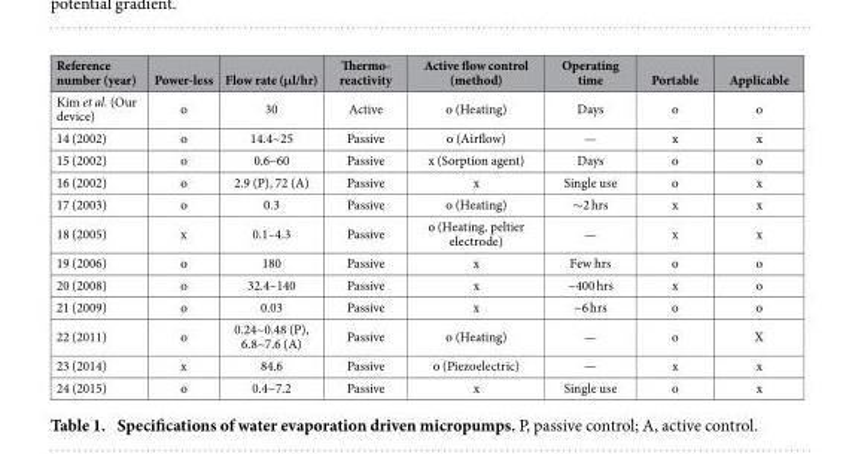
<table><thead><tr><td>Reference number (year)</td><td>Power-less</td><td>Flow rate (μl/hr)</td><td>Thermo- reactivity</td><td>Active flow control (method)</td><td>Operating time</td><td>Portable</td><td>Applicable</td></tr></thead><tbody><tr><td>Kim et al. (Our device)</td><td>o</td><td>30</td><td>Active</td><td>o (Heating)</td><td>Days</td><td>o</td><td>o</td></tr><tr><td>14 (2002)</td><td>o</td><td>14.4~25</td><td>Passive</td><td>o (Airflow)</td><td>—</td><td>x</td><td>x</td></tr><tr><td>15 (2002)</td><td>o</td><td>0.6–60</td><td>Passive</td><td>x (Sorption agent)</td><td>Days</td><td>o</td><td>o</td></tr><tr><td>16 (2002)</td><td>o</td><td>2.9 (P), 72 (A)</td><td>Passive</td><td>x</td><td>Single use</td><td>o</td><td>x</td></tr><tr><td>17 (2003)</td><td>o</td><td>0.3</td><td>Passive</td><td>o (Heating)</td><td>∼ 2 hrs</td><td>x</td><td>x</td></tr><tr><td>18 (2005)</td><td>x</td><td>0.1–4.3</td><td>Passive</td><td>o (Heating, peltier electrode)</td><td>—</td><td>x</td><td>x</td></tr><tr><td>19 (2006)</td><td>o</td><td>180</td><td>Passive</td><td>x</td><td>Few hrs</td><td>o</td><td>o</td></tr><tr><td>20 (2008)</td><td>o</td><td>32.4–140</td><td>Passive</td><td>x</td><td>~400 hrs</td><td>x</td><td>o</td></tr><tr><td>21 (2009)</td><td>o</td><td>0.03</td><td>Passive</td><td>x</td><td>~6 hrs</td><td>o</td><td>o</td></tr><tr><td>22 (2011)</td><td>o</td><td>0.24~0.48 (P), 6.8~7.6 (A)</td><td>Passive</td><td>o (Heating)</td><td>—</td><td>o</td><td>X</td></tr><tr><td>23 (2014)</td><td>x</td><td>84.6</td><td>Passive</td><td>o (Piezoelectric)</td><td>—</td><td>x</td><td>x</td></tr><tr><td>24 (2015)</td><td>o</td><td>0.4~7.2</td><td>Passive</td><td>x</td><td>Single use</td><td>o</td><td>x</td></tr></tbody></table>